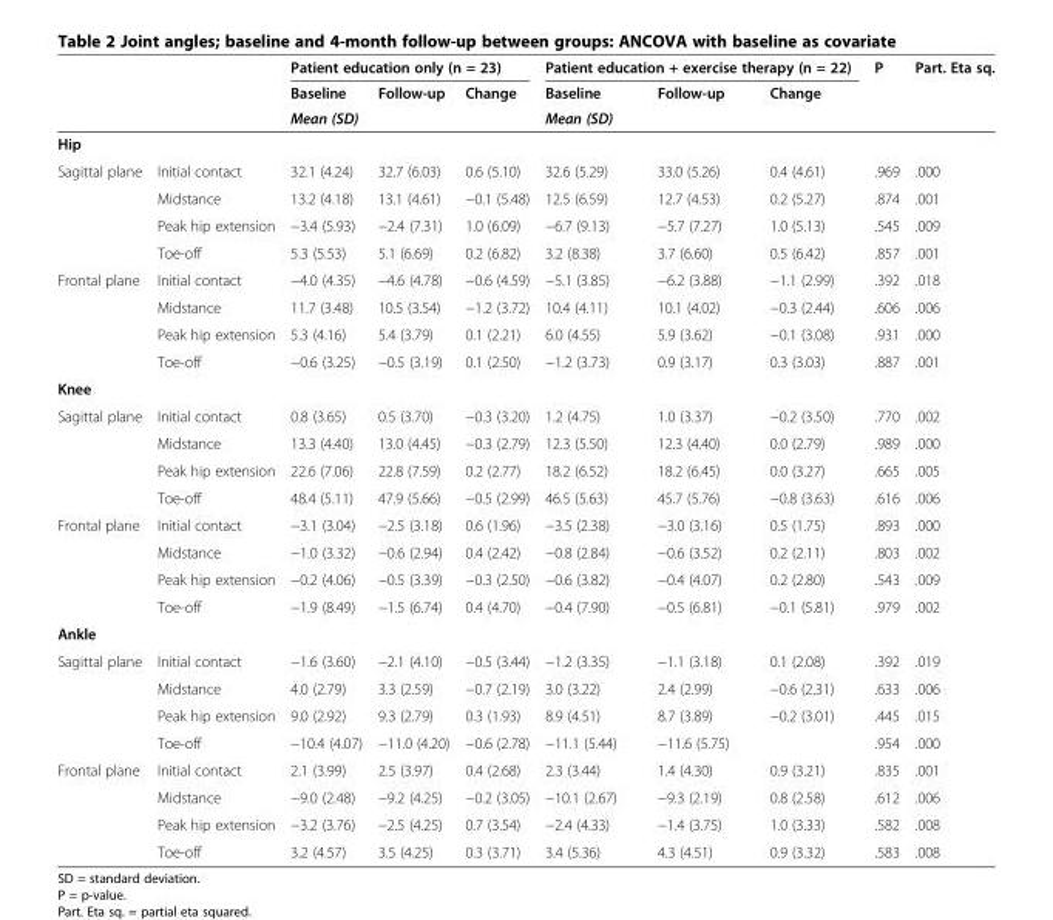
<table><thead><tr><td rowspan="3"></td><td rowspan="3"></td><td colspan="3">Patient education only (n = 23)</td><td colspan="3">Patient education + exercise therapy (n = 22)</td><td rowspan="3">P</td><td rowspan="3">Part. Eta sq.</td></tr><tr><td>Baseline</td><td>Follow-up</td><td>Change</td><td>Baseline</td><td>Follow-up</td><td>Change</td></tr><tr><td colspan="3">Mean (SD)</td><td colspan="3">Mean (SD)</td></tr></thead><tbody><tr><td colspan="10">Hip</td></tr><tr><td rowspan="4">Sagittal plane</td><td>Initial contact</td><td>32.1 (4.24)</td><td>32.7 (6.03)</td><td>0.6 (5.10)</td><td>32.6 (5.29)</td><td>33.0 (5.26)</td><td>0.4 (4.61)</td><td>.969</td><td>.000</td></tr><tr><td>Midstance</td><td>13.2 (4.18)</td><td>13.1 (4.61)</td><td>−0.1 (5.48)</td><td>12.5 (6.59)</td><td>12.7 (4.53)</td><td>0.2 (5.27)</td><td>.874</td><td>.001</td></tr><tr><td>Peak hip extension</td><td>−3.4 (5.93)</td><td>−2.4 (7.31)</td><td>1.0 (6.09)</td><td>−6.7 (9.13)</td><td>−5.7 (7.27)</td><td>1.0 (5.13)</td><td>.545</td><td>.009</td></tr><tr><td>Toe-off</td><td>5.3 (5.53)</td><td>5.1 (6.69)</td><td>0.2 (6.82)</td><td>3.2 (8.38)</td><td>3.7 (6.60)</td><td>0.5 (6.42)</td><td>.857</td><td>.001</td></tr><tr><td rowspan="4">Frontal plane</td><td>Initial contact</td><td>−4.0 (4.35)</td><td>−4.6 (4.78)</td><td>−0.6 (4.59)</td><td>−5.1 (3.85)</td><td>−6.2 (3.88)</td><td>−1.1 (2.99)</td><td>.392</td><td>.018</td></tr><tr><td>Midstance</td><td>11.7 (3.48)</td><td>10.5 (3.54)</td><td>−1.2 (3.72)</td><td>10.4 (4.11)</td><td>10.1 (4.02)</td><td>−0.3 (2.44)</td><td>.606</td><td>.006</td></tr><tr><td>Peak hip extension</td><td>5.3 (4.16)</td><td>5.4 (3.79)</td><td>0.1 (2.21)</td><td>6.0 (4.55)</td><td>5.9 (3.62)</td><td>−0.1 (3.08)</td><td>.931</td><td>.000</td></tr><tr><td>Toe-off</td><td>−0.6 (3.25)</td><td>−0.5 (3.19)</td><td>0.1 (2.50)</td><td>−1.2 (3.73)</td><td>0.9 (3.17)</td><td>0.3 (3.03)</td><td>.887</td><td>.001</td></tr><tr><td colspan="10">Knee</td></tr><tr><td rowspan="4">Sagittal plane</td><td>Initial contact</td><td>0.8 (3.65)</td><td>0.5 (3.70)</td><td>−0.3 (3.20)</td><td>1.2 (4.75)</td><td>1.0 (3.37)</td><td>−0.2 (3.50)</td><td>.770</td><td>.002</td></tr><tr><td>Midstance</td><td>13.3 (4.40)</td><td>13.0 (4.45)</td><td>−0.3 (2.79)</td><td>12.3 (5.50)</td><td>12.3 (4.40)</td><td>0.0 (2.79)</td><td>.989</td><td>.000</td></tr><tr><td>Peak hip extension</td><td>22.6 (7.06)</td><td>22.8 (7.59)</td><td>0.2 (2.77)</td><td>18.2 (6.52)</td><td>18.2 (6.45)</td><td>0.0 (3.27)</td><td>.665</td><td>.005</td></tr><tr><td>Toe-off</td><td>48.4 (5.11)</td><td>47.9 (5.66)</td><td>−0.5 (2.99)</td><td>46.5 (5.63)</td><td>45.7 (5.76)</td><td>−0.8 (3.63)</td><td>.616</td><td>.006</td></tr><tr><td rowspan="4">Frontal plane</td><td>Initial contact</td><td>−3.1 (3.04)</td><td>−2.5 (3.18)</td><td>0.6 (1.96)</td><td>−3.5 (2.38)</td><td>−3.0 (3.16)</td><td>0.5 (1.75)</td><td>.893</td><td>.000</td></tr><tr><td>Midstance</td><td>−1.0 (3.32)</td><td>−0.6 (2.94)</td><td>0.4 (2.42)</td><td>−0.8 (2.84)</td><td>−0.6 (3.52)</td><td>0.2 (2.11)</td><td>.803</td><td>.002</td></tr><tr><td>Peak hip extension</td><td>−0.2 (4.06)</td><td>−0.5 (3.39)</td><td>−0.3 (2.50)</td><td>−0.6 (3.82)</td><td>−0.4 (4.07)</td><td>0.2 (2.80)</td><td>.543</td><td>.009</td></tr><tr><td>Toe-off</td><td>−1.9 (8.49)</td><td>−1.5 (6.74)</td><td>0.4 (4.70)</td><td>−0.4 (7.90)</td><td>−0.5 (6.81)</td><td>−0.1 (5.81)</td><td>.979</td><td>.002</td></tr><tr><td colspan="10">Ankle</td></tr><tr><td rowspan="4">Sagittal plane</td><td>Initial contact</td><td>−1.6 (3.60)</td><td>−2.1 (4.10)</td><td>−0.5 (3.44)</td><td>−1.2 (3.35)</td><td>−1.1 (3.18)</td><td>0.1 (2.08)</td><td>.392</td><td>.019</td></tr><tr><td>Midstance</td><td>4.0 (2.79)</td><td>3.3 (2.59)</td><td>−0.7 (2.19)</td><td>3.0 (3.22)</td><td>2.4 (2.99)</td><td>−0.6 (2.31)</td><td>.633</td><td>.006</td></tr><tr><td>Peak hip extension</td><td>9.0 (2.92)</td><td>9.3 (2.79)</td><td>0.3 (1.93)</td><td>8.9 (4.51)</td><td>8.7 (3.89)</td><td>−0.2 (3.01)</td><td>.445</td><td>.015</td></tr><tr><td>Toe-off</td><td>−10.4 (4.07)</td><td>−11.0 (4.20)</td><td>−0.6 (2.78)</td><td>−11.1 (5.44)</td><td>−11.6 (5.75)</td><td></td><td>.954</td><td>.000</td></tr><tr><td rowspan="4">Frontal plane</td><td>Initial contact</td><td>2.1 (3.99)</td><td>2.5 (3.97)</td><td>0.4 (2.68)</td><td>2.3 (3.44)</td><td>1.4 (4.30)</td><td>0.9 (3.21)</td><td>.835</td><td>.001</td></tr><tr><td>Midstance</td><td>−9.0 (2.48)</td><td>−9.2 (4.25)</td><td>−0.2 (3.05)</td><td>−10.1 (2.67)</td><td>−9.3 (2.19)</td><td>0.8 (2.58)</td><td>.612</td><td>.006</td></tr><tr><td>Peak hip extension</td><td>−3.2 (3.76)</td><td>−2.5 (4.25)</td><td>0.7 (3.54)</td><td>−2.4 (4.33)</td><td>−1.4 (3.75)</td><td>1.0 (3.33)</td><td>.582</td><td>.008</td></tr><tr><td>Toe-off</td><td>3.2 (4.57)</td><td>3.5 (4.25)</td><td>0.3 (3.71)</td><td>3.4 (5.36)</td><td>4.3 (4.51)</td><td>0.9 (3.32)</td><td>.583</td><td>.008</td></tr></tbody></table>